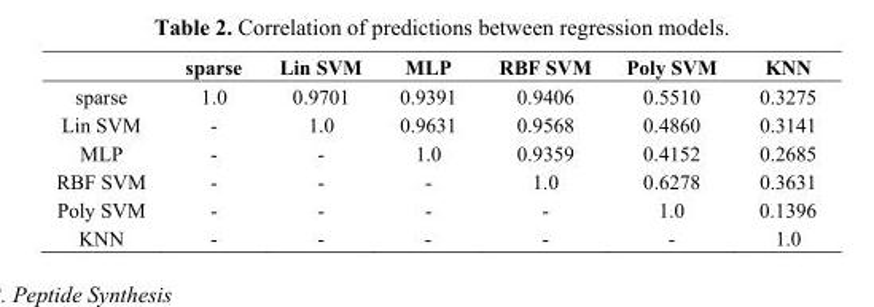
<table><thead><tr><td></td><td>sparse</td><td>Lin SVM</td><td>MLP</td><td>RBF SVM</td><td>Poly SVM</td><td>KNN</td></tr></thead><tbody><tr><td>sparse</td><td>1.0</td><td>0.9701</td><td>0.9391</td><td>0.9406</td><td>0.5510</td><td>0.3275</td></tr><tr><td>Lin SVM</td><td>-</td><td>1.0</td><td>0.9631</td><td>0.9568</td><td>0.4860</td><td>0.3141</td></tr><tr><td>MLP</td><td>-</td><td>-</td><td>1.0</td><td>0.9359</td><td>0.4152</td><td>0.2685</td></tr><tr><td>RBF SVM</td><td>-</td><td>-</td><td>-</td><td>1.0</td><td>0.6278</td><td>0.3631</td></tr><tr><td>Poly SVM</td><td>-</td><td>-</td><td>-</td><td>-</td><td>1.0</td><td>0.1396</td></tr><tr><td>KNN</td><td>-</td><td>-</td><td>-</td><td>-</td><td>-</td><td>1.0</td></tr></tbody></table>